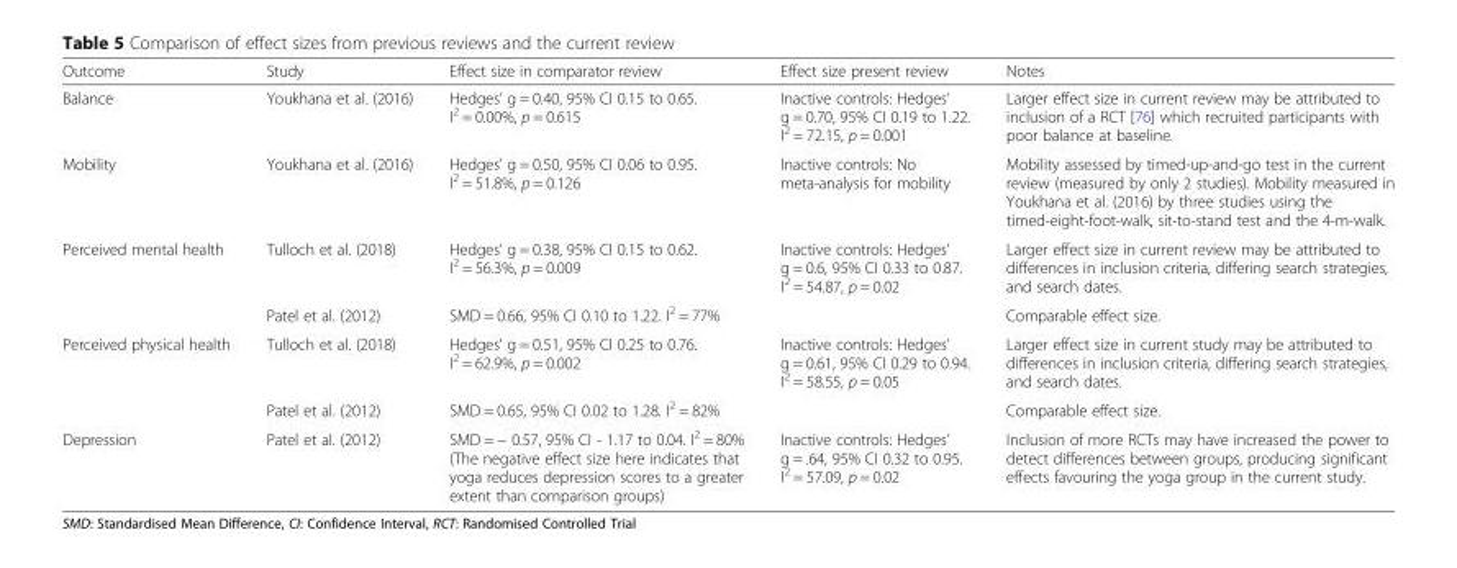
<table><thead><tr><td>Outcome</td><td>Study</td><td>Effect size in comparator review</td><td>Effect size present review</td><td>Notes</td></tr></thead><tbody><tr><td>Balance</td><td>Youkhana et al. (2016)</td><td>Hedges’ g = 0.40, 95% CI 0.15 to 0.65. I<sup>2</sup> = 0.00%, p = 0.615</td><td>Inactive controls: Hedges’ g = 0.70, 95% CI 0.19 to 1.22. I<sup>2</sup> = 72.15, p = 0.001</td><td>Larger effect size in current review may be attributed to inclusion of a RCT [76] which recruited participants with poor balance at baseline.</td></tr><tr><td>Mobility</td><td>Youkhana et al. (2016)</td><td>Hedges’ g = 0.50, 95% CI 0.06 to 0.95. I<sup>2</sup> = 51.8%, p = 0.126</td><td>Inactive controls: No meta-analysis for mobility</td><td>Mobility assessed by timed-up-and-go test in the current review (measured by only 2 studies). Mobility measured in Youkhana et al. (2016) by three studies using the timed-eight-foot-walk, sit-to-stand test and the 4-m-walk.</td></tr><tr><td rowspan="2">Perceived mental health</td><td>Tulloch et al. (2018)</td><td>Hedges’ g = 0.38, 95% CI 0.15 to 0.62. I<sup>2</sup> = 56.3%, p = 0.009</td><td rowspan="2">Inactive controls: Hedges’ g = 0.6, 95% CI 0.33 to 0.87. I<sup>2</sup> = 54.87, p = 0.02</td><td>Larger effect size in current review may be attributed to differences in inclusion criteria, differing search strategies, and search dates.</td></tr><tr><td>Patel et al. (2012)</td><td>SMD = 0.66, 95% CI 0.10 to 1.22. I<sup>2</sup> = 77%</td><td>Comparable effect size.</td></tr><tr><td rowspan="2">Perceived physical health</td><td>Tulloch et al. (2018)</td><td>Hedges’ g = 0.51, 95% CI 0.25 to 0.76. I<sup>2</sup> = 62.9%, p = 0.002</td><td rowspan="2">Inactive controls: Hedges’ g = 0.61, 95% CI 0.29 to 0.94. I<sup>2</sup> = 58.55, p = 0.05</td><td>Larger effect size in current study may be attributed to differences in inclusion criteria, differing search strategies, and search dates.</td></tr><tr><td>Patel et al. (2012)</td><td>SMD = 0.65, 95% CI 0.02 to 1.28. I<sup>2</sup> = 82%</td><td>Comparable effect size.</td></tr><tr><td>Depression</td><td>Patel et al. (2012)</td><td>SMD = − 0.57, 95% CI - 1.17 to 0.04. I<sup>2</sup> = 80% (The negative effect size here indicates that yoga reduces depression scores to a greater extent than comparison groups)</td><td>Inactive controls: Hedges’ g = .64, 95% CI 0.32 to 0.95. I<sup>2</sup> = 57.09, p = 0.02</td><td>Inclusion of more RCTs may have increased the power to detect differences between groups, producing significant effects favouring the yoga group in the current study.</td></tr></tbody></table>